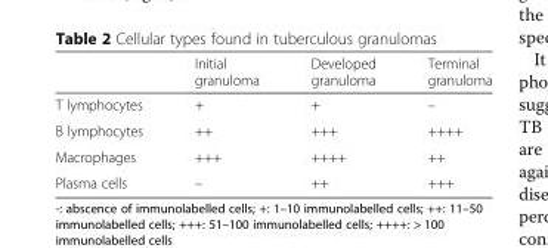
<table><thead><tr><td></td><td>Initial granuloma</td><td>Developed granuloma</td><td>Terminal granuloma</td></tr></thead><tbody><tr><td>T lymphocytes</td><td>+</td><td>+</td><td>–</td></tr><tr><td>B lymphocytes</td><td>++</td><td>+++</td><td>++++</td></tr><tr><td>Macrophages</td><td>+++</td><td>++++</td><td>++</td></tr><tr><td>Plasma cells</td><td>–</td><td>++</td><td>+++</td></tr></tbody></table>